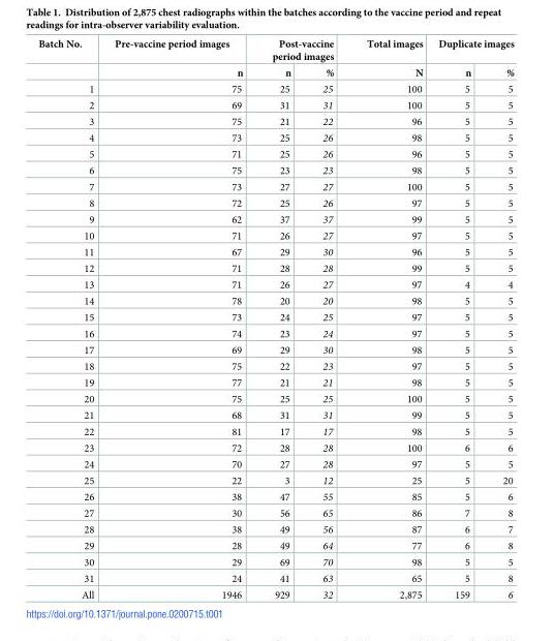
<table><thead><tr><td rowspan="2">Batch No.</td><td rowspan="2">Pre-vaccine period images n</td><td colspan="2">Post-vaccine period images</td><td rowspan="2">Total images N</td><td colspan="2">Duplicate images</td></tr><tr><td>n</td><td>%</td><td>n</td><td>%</td></tr></thead><tbody><tr><td>1</td><td>75</td><td>25</td><td>25</td><td>100</td><td>5</td><td>5</td></tr><tr><td>2</td><td>69</td><td>31</td><td>31</td><td>100</td><td>5</td><td>5</td></tr><tr><td>3</td><td>75</td><td>21</td><td>22</td><td>96</td><td>5</td><td>5</td></tr><tr><td>4</td><td>73</td><td>25</td><td>26</td><td>98</td><td>5</td><td>5</td></tr><tr><td>5</td><td>71</td><td>25</td><td>26</td><td>96</td><td>5</td><td>5</td></tr><tr><td>6</td><td>75</td><td>23</td><td>23</td><td>98</td><td>5</td><td>5</td></tr><tr><td>7</td><td>73</td><td>27</td><td>27</td><td>100</td><td>5</td><td>5</td></tr><tr><td>8</td><td>72</td><td>25</td><td>26</td><td>97</td><td>5</td><td>5</td></tr><tr><td>9</td><td>62</td><td>37</td><td>37</td><td>99</td><td>5</td><td>5</td></tr><tr><td>10</td><td>71</td><td>26</td><td>27</td><td>97</td><td>5</td><td>5</td></tr><tr><td>11</td><td>67</td><td>29</td><td>30</td><td>96</td><td>5</td><td>5</td></tr><tr><td>12</td><td>71</td><td>28</td><td>28</td><td>99</td><td>5</td><td>5</td></tr><tr><td>13</td><td>71</td><td>26</td><td>27</td><td>97</td><td>4</td><td>4</td></tr><tr><td>14</td><td>78</td><td>20</td><td>20</td><td>98</td><td>5</td><td>5</td></tr><tr><td>15</td><td>73</td><td>24</td><td>25</td><td>97</td><td>5</td><td>5</td></tr><tr><td>16</td><td>74</td><td>23</td><td>24</td><td>97</td><td>5</td><td>5</td></tr><tr><td>17</td><td>69</td><td>29</td><td>30</td><td>98</td><td>5</td><td>5</td></tr><tr><td>18</td><td>75</td><td>22</td><td>23</td><td>97</td><td>5</td><td>5</td></tr><tr><td>19</td><td>77</td><td>21</td><td>21</td><td>98</td><td>5</td><td>5</td></tr><tr><td>20</td><td>75</td><td>25</td><td>25</td><td>100</td><td>5</td><td>5</td></tr><tr><td>21</td><td>68</td><td>31</td><td>31</td><td>99</td><td>5</td><td>5</td></tr><tr><td>22</td><td>81</td><td>17</td><td>17</td><td>98</td><td>5</td><td>5</td></tr><tr><td>23</td><td>72</td><td>28</td><td>28</td><td>100</td><td>6</td><td>6</td></tr><tr><td>24</td><td>70</td><td>27</td><td>28</td><td>97</td><td>5</td><td>5</td></tr><tr><td>25</td><td>22</td><td>3</td><td>12</td><td>25</td><td>5</td><td>20</td></tr><tr><td>26</td><td>38</td><td>47</td><td>55</td><td>85</td><td>5</td><td>6</td></tr><tr><td>27</td><td>30</td><td>56</td><td>65</td><td>86</td><td>7</td><td>8</td></tr><tr><td>28</td><td>38</td><td>49</td><td>56</td><td>87</td><td>6</td><td>7</td></tr><tr><td>29</td><td>28</td><td>49</td><td>64</td><td>77</td><td>6</td><td>8</td></tr><tr><td>30</td><td>29</td><td>69</td><td>70</td><td>98</td><td>5</td><td>5</td></tr><tr><td>31</td><td>24</td><td>41</td><td>63</td><td>65</td><td>5</td><td>8</td></tr><tr><td>All</td><td>1946</td><td>929</td><td>32</td><td>2,875</td><td>159</td><td>6</td></tr></tbody></table>